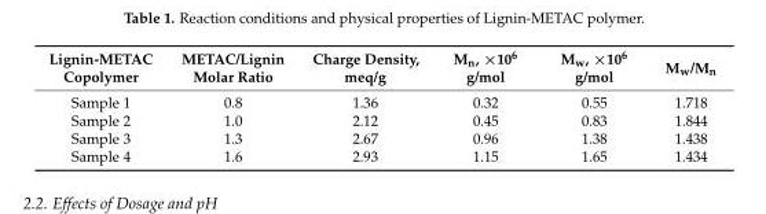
<table><thead><tr><td>Lignin-METAC Copolymer</td><td>METAC/Lignin Molar Ratio</td><td>Charge Density, meq/g</td><td>M<sub>n</sub>, ×10<sup>6</sup> g/mol</td><td>M<sub>w</sub>, ×10<sup>6</sup> g/mol</td><td>M<sub>w</sub>/M<sub>n</sub></td></tr></thead><tbody><tr><td>Sample 1</td><td>0.8</td><td>1.36</td><td>0.32</td><td>0.55</td><td>1.718</td></tr><tr><td>Sample 2</td><td>1.0</td><td>2.12</td><td>0.45</td><td>0.83</td><td>1.844</td></tr><tr><td>Sample 3</td><td>1.3</td><td>2.67</td><td>0.96</td><td>1.38</td><td>1.438</td></tr><tr><td>Sample 4</td><td>1.6</td><td>2.93</td><td>1.15</td><td>1.65</td><td>1.434</td></tr></tbody></table>